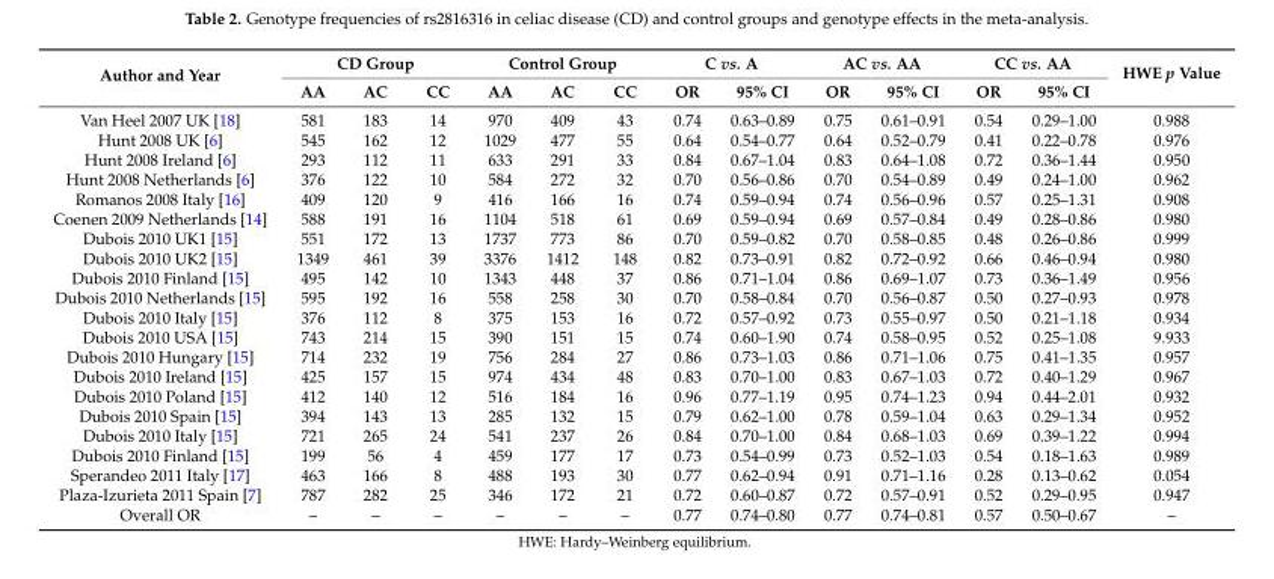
<table><thead><tr><td rowspan="2">Author and Year</td><td colspan="3">CD Group</td><td colspan="3">Control Group</td><td colspan="2">C vs. A</td><td colspan="2">AC vs. AA</td><td colspan="2">CC vs. AA</td><td rowspan="2">HWE p Value</td></tr><tr><td>AA</td><td>AC</td><td>CC</td><td>AA</td><td>AC</td><td>CC</td><td>OR</td><td>95% CI</td><td>OR</td><td>95% CI</td><td>OR</td><td>95% CI</td></tr></thead><tbody><tr><td>Van Heel 2007 UK [18]</td><td>581</td><td>183</td><td>14</td><td>970</td><td>409</td><td>43</td><td>0.74</td><td>0.63–0.89</td><td>0.75</td><td>0.61–0.91</td><td>0.54</td><td>0.29–1.00</td><td>0.988</td></tr><tr><td>Hunt 2008 UK [6]</td><td>545</td><td>162</td><td>12</td><td>1029</td><td>477</td><td>55</td><td>0.64</td><td>0.54–0.77</td><td>0.64</td><td>0.52–0.79</td><td>0.41</td><td>0.22–0.78</td><td>0.976</td></tr><tr><td>Hunt 2008 Ireland [6]</td><td>293</td><td>112</td><td>11</td><td>633</td><td>291</td><td>33</td><td>0.84</td><td>0.67–1.04</td><td>0.83</td><td>0.64–1.08</td><td>0.72</td><td>0.36–1.44</td><td>0.950</td></tr><tr><td>Hunt 2008 Netherlands [6]</td><td>376</td><td>122</td><td>10</td><td>584</td><td>272</td><td>32</td><td>0.70</td><td>0.56–0.86</td><td>0.70</td><td>0.54–0.89</td><td>0.49</td><td>0.24–1.00</td><td>0.962</td></tr><tr><td>Romanos 2008 Italy [16]</td><td>409</td><td>120</td><td>9</td><td>416</td><td>166</td><td>16</td><td>0.74</td><td>0.59–0.94</td><td>0.74</td><td>0.56–0.96</td><td>0.57</td><td>0.25–1.31</td><td>0.908</td></tr><tr><td>Coenen 2009 Netherlands [14]</td><td>588</td><td>191</td><td>16</td><td>1104</td><td>518</td><td>61</td><td>0.69</td><td>0.59–0.94</td><td>0.69</td><td>0.57–0.84</td><td>0.49</td><td>0.28–0.86</td><td>0.980</td></tr><tr><td>Dubois 2010 UK1 [15]</td><td>551</td><td>172</td><td>13</td><td>1737</td><td>773</td><td>86</td><td>0.70</td><td>0.59–0.82</td><td>0.70</td><td>0.58–0.85</td><td>0.48</td><td>0.26–0.86</td><td>0.999</td></tr><tr><td>Dubois 2010 UK2 [15]</td><td>1349</td><td>461</td><td>39</td><td>3376</td><td>1412</td><td>148</td><td>0.82</td><td>0.73–0.91</td><td>0.82</td><td>0.72–0.92</td><td>0.66</td><td>0.46–0.94</td><td>0.980</td></tr><tr><td>Dubois 2010 Finland [15]</td><td>495</td><td>142</td><td>10</td><td>1343</td><td>448</td><td>37</td><td>0.86</td><td>0.71–1.04</td><td>0.86</td><td>0.69–1.07</td><td>0.73</td><td>0.36–1.49</td><td>0.956</td></tr><tr><td>Dubois 2010 Netherlands [15]</td><td>595</td><td>192</td><td>16</td><td>558</td><td>258</td><td>30</td><td>0.70</td><td>0.58–0.84</td><td>0.70</td><td>0.56–0.87</td><td>0.50</td><td>0.27–0.93</td><td>0.978</td></tr><tr><td>Dubois 2010 Italy [15]</td><td>376</td><td>112</td><td>8</td><td>375</td><td>153</td><td>16</td><td>0.72</td><td>0.57–0.92</td><td>0.73</td><td>0.55–0.97</td><td>0.50</td><td>0.21–1.18</td><td>0.934</td></tr><tr><td>Dubois 2010 USA [15]</td><td>743</td><td>214</td><td>15</td><td>390</td><td>151</td><td>15</td><td>0.74</td><td>0.60–1.90</td><td>0.74</td><td>0.58–0.95</td><td>0.52</td><td>0.25–1.08</td><td>9.933</td></tr><tr><td>Dubois 2010 Hungary [15]</td><td>714</td><td>232</td><td>19</td><td>756</td><td>284</td><td>27</td><td>0.86</td><td>0.73–1.03</td><td>0.86</td><td>0.71–1.06</td><td>0.75</td><td>0.41–1.35</td><td>0.957</td></tr><tr><td>Dubois 2010 Ireland [15]</td><td>425</td><td>157</td><td>15</td><td>974</td><td>434</td><td>48</td><td>0.83</td><td>0.70–1.00</td><td>0.83</td><td>0.67–1.03</td><td>0.72</td><td>0.40–1.29</td><td>0.967</td></tr><tr><td>Dubois 2010 Poland [15]</td><td>412</td><td>140</td><td>12</td><td>516</td><td>184</td><td>16</td><td>0.96</td><td>0.77–1.19</td><td>0.95</td><td>0.74–1.23</td><td>0.94</td><td>0.44–2.01</td><td>0.932</td></tr><tr><td>Dubois 2010 Spain [15]</td><td>394</td><td>143</td><td>13</td><td>285</td><td>132</td><td>15</td><td>0.79</td><td>0.62–1.00</td><td>0.78</td><td>0.59–1.04</td><td>0.63</td><td>0.29–1.34</td><td>0.952</td></tr><tr><td>Dubois 2010 Italy [15]</td><td>721</td><td>265</td><td>24</td><td>541</td><td>237</td><td>26</td><td>0.84</td><td>0.70–1.00</td><td>0.84</td><td>0.68–1.03</td><td>0.69</td><td>0.39–1.22</td><td>0.994</td></tr><tr><td>Dubois 2010 Finland [15]</td><td>199</td><td>56</td><td>4</td><td>459</td><td>177</td><td>17</td><td>0.73</td><td>0.54–0.99</td><td>0.73</td><td>0.52–1.03</td><td>0.54</td><td>0.18–1.63</td><td>0.989</td></tr><tr><td>Sperandeo 2011 Italy [17]</td><td>463</td><td>166</td><td>8</td><td>488</td><td>193</td><td>30</td><td>0.77</td><td>0.62–0.94</td><td>0.91</td><td>0.71–1.16</td><td>0.28</td><td>0.13–0.62</td><td>0.054</td></tr><tr><td>Plaza-Izurieta 2011 Spain [7]</td><td>787</td><td>282</td><td>25</td><td>346</td><td>172</td><td>21</td><td>0.72</td><td>0.60–0.87</td><td>0.72</td><td>0.57–0.91</td><td>0.52</td><td>0.29–0.95</td><td>0.947</td></tr><tr><td>Overall OR</td><td>–</td><td>–</td><td>–</td><td>–</td><td>–</td><td>–</td><td>0.77</td><td>0.74–0.80</td><td>0.77</td><td>0.74–0.81</td><td>0.57</td><td>0.50–0.67</td><td>–</td></tr></tbody></table>